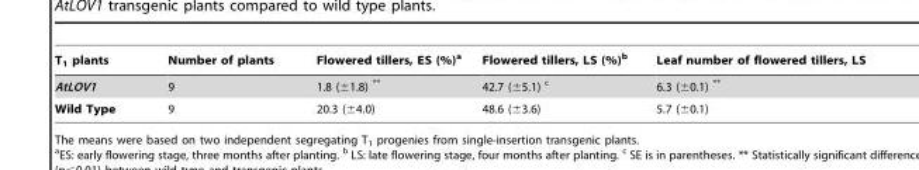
<table><thead><tr><td>T<sub>1</sub> plants</td><td>Number of plants</td><td>Flowered tillers, ES (%)<sup>a</sup></td><td>Flowered tillers, LS (%)<sup>b</sup></td><td>Leaf number of flowered tillers, LS</td></tr></thead><tbody><tr><td>AtLOV1</td><td>9</td><td>1.8 (±1.8) **</td><td>42.7 (±5.1) <sup>c</sup></td><td>6.3 (±0.1) **</td></tr><tr><td>Wild Type</td><td>9</td><td>20.3 (±4.0)</td><td>48.6 (±3.6)</td><td>5.7 (±0.1)</td></tr></tbody></table>